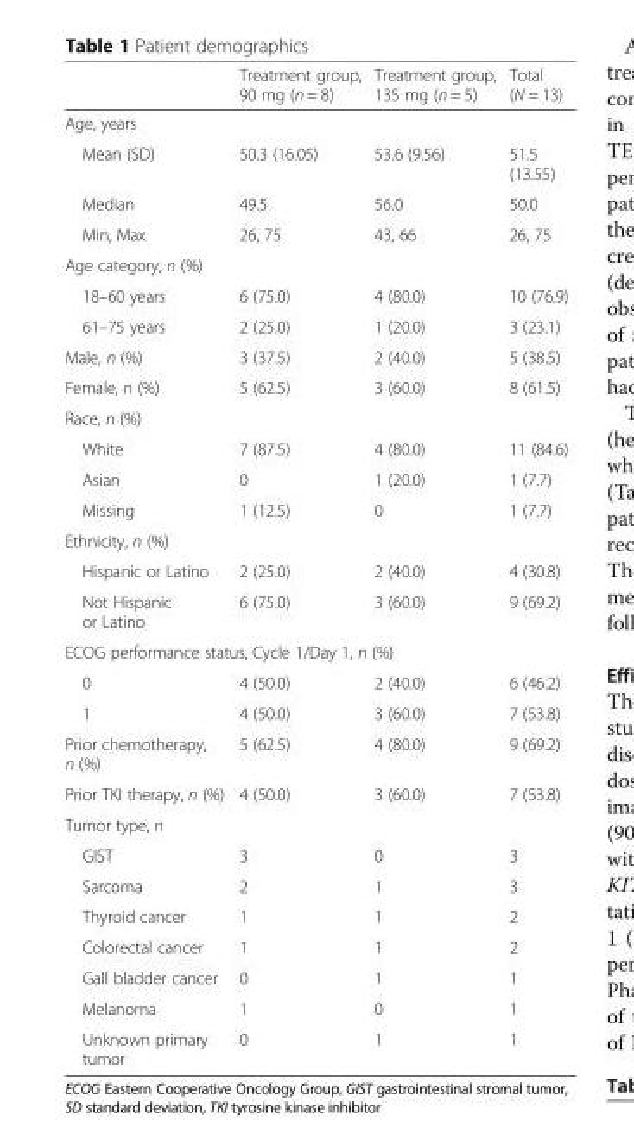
<table><thead><tr><td></td><td>Treatment group, 90 mg (n = 8)</td><td>Treatment group, 135 mg (n = 5)</td><td>Total (N = 13)</td></tr></thead><tbody><tr><td colspan="4">Age, years</td></tr><tr><td>Mean (SD)</td><td>50.3 (16.05)</td><td>53.6 (9.56)</td><td>51.5 (13.55)</td></tr><tr><td>Median</td><td>49.5</td><td>56.0</td><td>50.0</td></tr><tr><td>Min, Max</td><td>26, 75</td><td>43, 66</td><td>26, 75</td></tr><tr><td colspan="4">Age category, n (%)</td></tr><tr><td>18–60 years</td><td>6 (75.0)</td><td>4 (80.0)</td><td>10 (76.9)</td></tr><tr><td>61–75 years</td><td>2 (25.0)</td><td>1 (20.0)</td><td>3 (23.1)</td></tr><tr><td>Male, n (%)</td><td>3 (37.5)</td><td>2 (40.0)</td><td>5 (38.5)</td></tr><tr><td>Female, n (%)</td><td>5 (62.5)</td><td>3 (60.0)</td><td>8 (61.5)</td></tr><tr><td colspan="4">Race, n (%)</td></tr><tr><td>White</td><td>7 (87.5)</td><td>4 (80.0)</td><td>11 (84.6)</td></tr><tr><td>Asian</td><td>0</td><td>1 (20.0)</td><td>1 (7.7)</td></tr><tr><td>Missing</td><td>1 (12.5)</td><td>0</td><td>1 (7.7)</td></tr><tr><td colspan="4">Ethnicity, n (%)</td></tr><tr><td>Hispanic or Latino</td><td>2 (25.0)</td><td>2 (40.0)</td><td>4 (30.8)</td></tr><tr><td>Not Hispanic or Latino</td><td>6 (75.0)</td><td>3 (60.0)</td><td>9 (69.2)</td></tr><tr><td colspan="4">ECOG performance status, Cycle 1/Day 1, n (%)</td></tr><tr><td>0</td><td>4 (50.0)</td><td>2 (40.0)</td><td>6 (46.2)</td></tr><tr><td>1</td><td>4 (50.0)</td><td>3 (60.0)</td><td>7 (53.8)</td></tr><tr><td>Prior chemotherapy, n (%)</td><td>5 (62.5)</td><td>4 (80.0)</td><td>9 (69.2)</td></tr><tr><td>Prior TKI therapy, n (%)</td><td>4 (50.0)</td><td>3 (60.0)</td><td>7 (53.8)</td></tr><tr><td colspan="4">Tumor type, n</td></tr><tr><td>GIST</td><td>3</td><td>0</td><td>3</td></tr><tr><td>Sarcoma</td><td>2</td><td>1</td><td>3</td></tr><tr><td>Thyroid cancer</td><td>1</td><td>1</td><td>2</td></tr><tr><td>Colorectal cancer</td><td>1</td><td>1</td><td>2</td></tr><tr><td>Gall bladder cancer</td><td>0</td><td>1</td><td>1</td></tr><tr><td>Melanoma</td><td>1</td><td>0</td><td>1</td></tr><tr><td>Unknown primary tumor</td><td>0</td><td>1</td><td>1</td></tr></tbody></table>